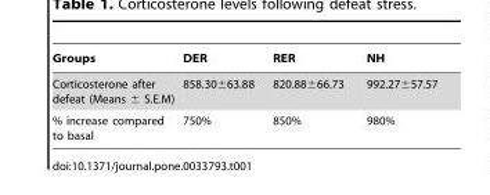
<table><thead><tr><td>Groups</td><td>DER</td><td>RER</td><td>NH</td></tr></thead><tbody><tr><td>Corticosterone after defeat (Means ± S.E.M)</td><td>858.30±63.88</td><td>820.88±66.73</td><td>992.27±57.57</td></tr><tr><td>% increase compared to basal</td><td>750%</td><td>850%</td><td>980%</td></tr></tbody></table>